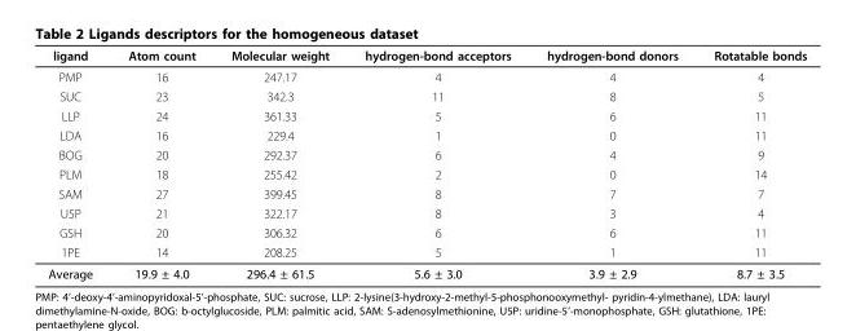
<table><thead><tr><td>ligand</td><td>Atom count</td><td>Molecular weight</td><td>hydrogen-bond acceptors</td><td>hydrogen-bond donors</td><td>Rotatable bonds</td></tr></thead><tbody><tr><td>PMP</td><td>16</td><td>247.17</td><td>4</td><td>4</td><td>4</td></tr><tr><td>SUC</td><td>23</td><td>342.3</td><td>11</td><td>8</td><td>5</td></tr><tr><td>LLP</td><td>24</td><td>361.33</td><td>5</td><td>6</td><td>11</td></tr><tr><td>LDA</td><td>16</td><td>229.4</td><td>1</td><td>0</td><td>11</td></tr><tr><td>BOG</td><td>20</td><td>292.37</td><td>6</td><td>4</td><td>9</td></tr><tr><td>PLM</td><td>18</td><td>255.42</td><td>2</td><td>0</td><td>14</td></tr><tr><td>SAM</td><td>27</td><td>399.45</td><td>8</td><td>7</td><td>7</td></tr><tr><td>U5P</td><td>21</td><td>322.17</td><td>8</td><td>3</td><td>4</td></tr><tr><td>GSH</td><td>20</td><td>306.32</td><td>6</td><td>6</td><td>11</td></tr><tr><td>1PE</td><td>14</td><td>208.25</td><td>5</td><td>1</td><td>11</td></tr><tr><td>Average</td><td>19.9 ± 4.0</td><td>296.4 ± 61.5</td><td>5.6 ± 3.0</td><td>3.9 ± 2.9</td><td>8.7 ± 3.5</td></tr></tbody></table>